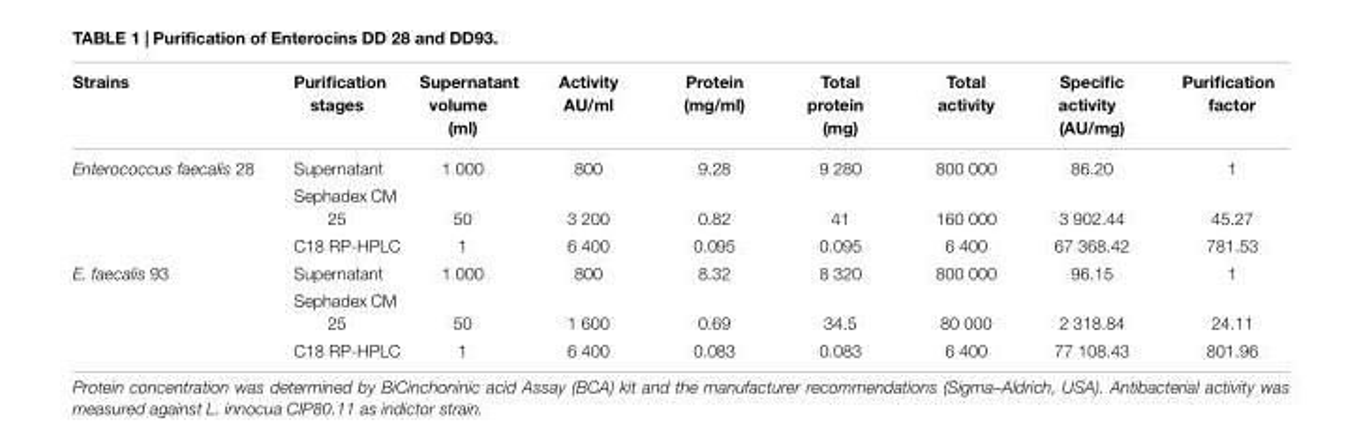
<table><thead><tr><td>Strains</td><td>Purification stages</td><td>Supernatant volume (ml)</td><td>Activity AU/ml</td><td>Protein (mg/ml)</td><td>Total protein (mg)</td><td>Total activity</td><td>Specific activity (AU/mg)</td><td>Purification factor</td></tr></thead><tbody><tr><td rowspan="3">Enterococcus faecalis 28</td><td>Supernatant</td><td>1 000</td><td>800</td><td>9.28</td><td>9 280</td><td>800 000</td><td>86.20</td><td>1</td></tr><tr><td>Sephadex CM 25</td><td>50</td><td>3 200</td><td>0.82</td><td>41</td><td>160 000</td><td>3 902.44</td><td>45.27</td></tr><tr><td>C18 RP-HPLC</td><td>1</td><td>6 400</td><td>0.095</td><td>0.095</td><td>6 400</td><td>67 368.42</td><td>781.53</td></tr><tr><td rowspan="3">E. faecalis 93</td><td>Supernatant</td><td>1 000</td><td>800</td><td>8.32</td><td>8 320</td><td>800 000</td><td>96.15</td><td>1</td></tr><tr><td>Sephadex CM 25</td><td>50</td><td>1 600</td><td>0.69</td><td>34.5</td><td>80 000</td><td>2 318.84</td><td>24.11</td></tr><tr><td>C18 RP-HPLC</td><td>1</td><td>6 400</td><td>0.083</td><td>0.083</td><td>6 400</td><td>77 108.43</td><td>801.96</td></tr></tbody></table>